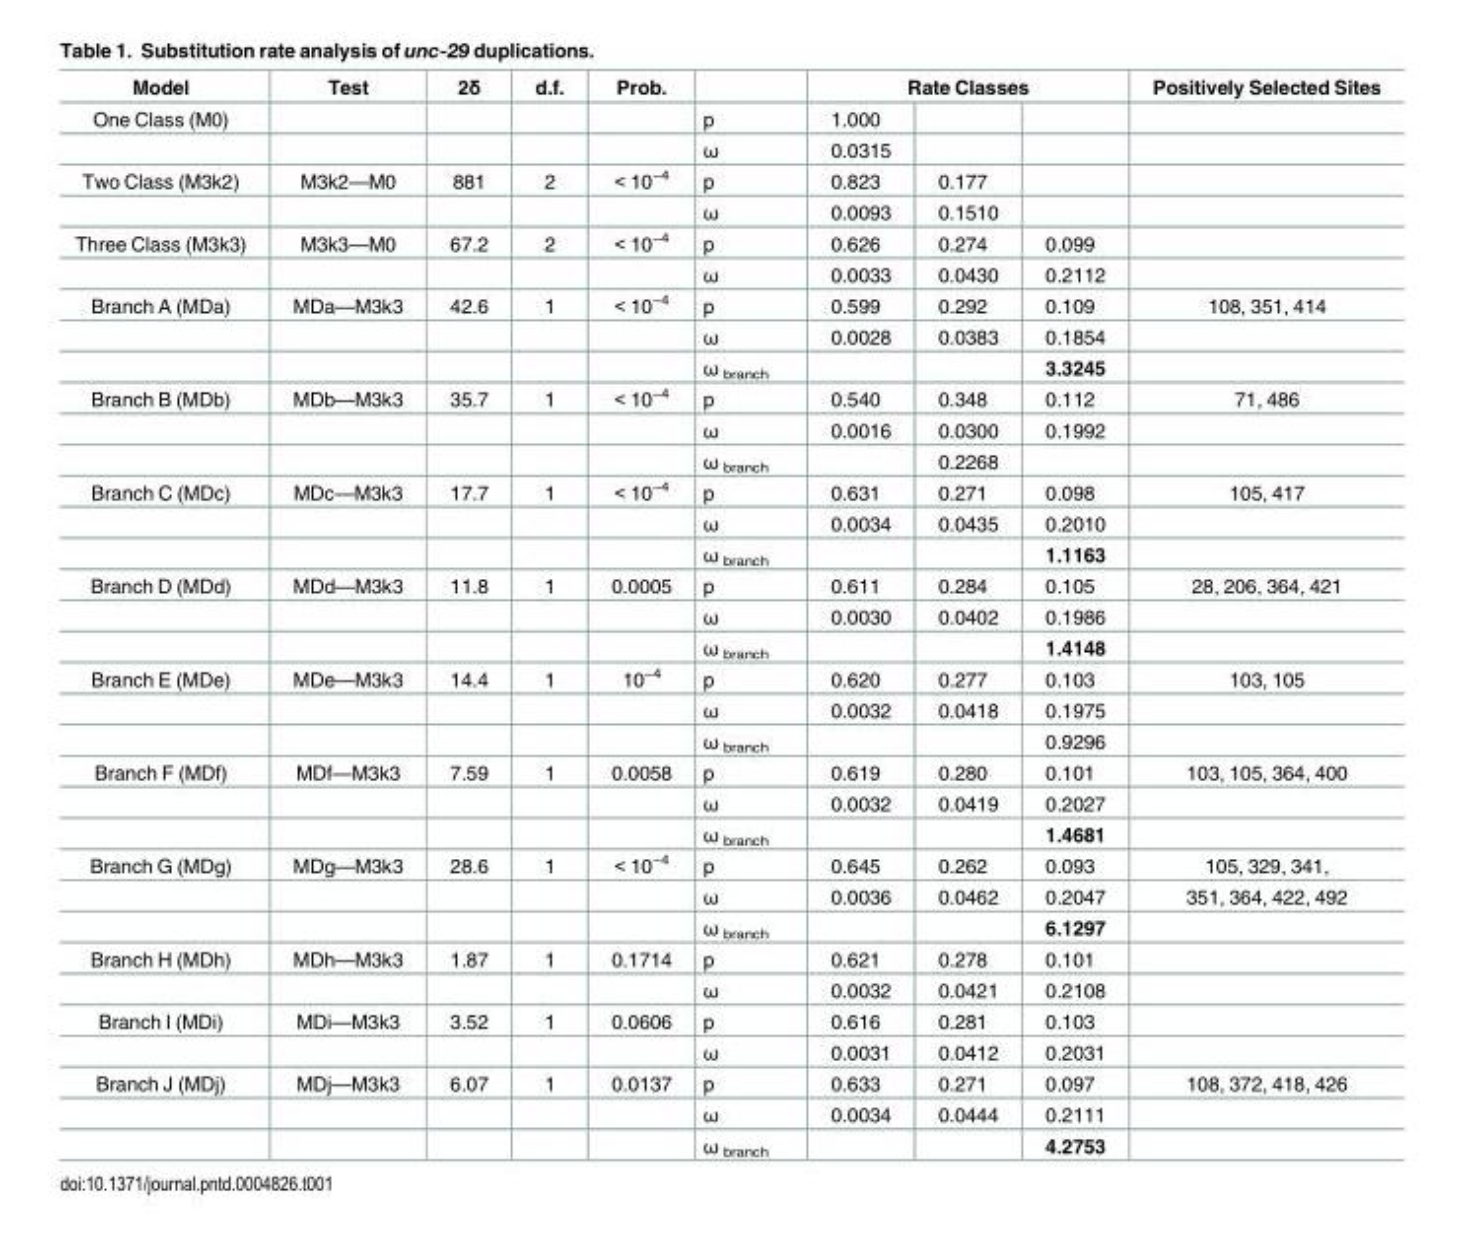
<table><thead><tr><td rowspan="2">Model One Class (M0)</td><td rowspan="2">Test</td><td rowspan="2">2δ</td><td rowspan="2">d.f.</td><td rowspan="2">Prob.</td><td rowspan="2">p</td><td colspan="3">Rate Classes</td><td rowspan="2">Positively Selected Sites</td></tr><tr><td>1.000</td><td></td><td></td></tr></thead><tbody><tr><td></td><td></td><td></td><td></td><td></td><td>ω</td><td>0.0315</td><td></td><td></td><td></td></tr><tr><td rowspan="2">Two Class (M3k2)</td><td>M3k2—M0</td><td>881</td><td>2</td><td>&lt; 10<sup>−4</sup></td><td>p</td><td>0.823</td><td>0.177</td><td></td><td></td></tr><tr><td></td><td></td><td></td><td></td><td>ω</td><td>0.0093</td><td>0.1510</td><td></td><td></td></tr><tr><td rowspan="2">Three Class (M3k3)</td><td>M3k3—M0</td><td>67.2</td><td>2</td><td>&lt; 10<sup>−4</sup></td><td>p</td><td>0.626</td><td>0.274</td><td>0.099</td><td></td></tr><tr><td></td><td></td><td></td><td></td><td>ω</td><td>0.0033</td><td>0.0430</td><td>0.2112</td><td></td></tr><tr><td rowspan="3">Branch A (MDa)</td><td>MDa—M3k3</td><td>42.6</td><td>1</td><td>&lt; 10<sup>−4</sup></td><td>p</td><td>0.599</td><td>0.292</td><td>0.109</td><td>108, 351, 414</td></tr><tr><td></td><td></td><td></td><td></td><td>ω</td><td>0.0028</td><td>0.0383</td><td>0.1854</td><td></td></tr><tr><td></td><td></td><td></td><td></td><td>ω <sub>branch</sub></td><td></td><td></td><td>3.3245</td><td></td></tr><tr><td rowspan="3">Branch B (MDb)</td><td>MDb—M3k3</td><td>35.7</td><td>1</td><td>&lt; 10<sup>−4</sup></td><td>p</td><td>0.540</td><td>0.348</td><td>0.112</td><td>71, 486</td></tr><tr><td></td><td></td><td></td><td></td><td>ω</td><td>0.0016</td><td>0.0300</td><td>0.1992</td><td></td></tr><tr><td></td><td></td><td></td><td></td><td>ω <sub>branch</sub></td><td></td><td>0.2268</td><td></td><td></td></tr><tr><td rowspan="3">Branch C (MDc)</td><td>MDc—M3k3</td><td>17.7</td><td>1</td><td>&lt; 10<sup>−4</sup></td><td>p</td><td>0.631</td><td>0.271</td><td>0.098</td><td>105, 417</td></tr><tr><td></td><td></td><td></td><td></td><td>ω</td><td>0.0034</td><td>0.0435</td><td>0.2010</td><td></td></tr><tr><td></td><td></td><td></td><td></td><td>ω <sub>branch</sub></td><td></td><td></td><td>1.1163</td><td></td></tr><tr><td rowspan="3">Branch D (MDd)</td><td>MDd—M3k3</td><td>11.8</td><td>1</td><td>0.0005</td><td>p</td><td>0.611</td><td>0.284</td><td>0.105</td><td>28, 206, 364, 421</td></tr><tr><td></td><td></td><td></td><td></td><td>ω</td><td>0.0030</td><td>0.0402</td><td>0.1986</td><td></td></tr><tr><td></td><td></td><td></td><td></td><td>ω <sub>branch</sub></td><td></td><td></td><td>1.4148</td><td></td></tr><tr><td rowspan="3">Branch E (MDe)</td><td>MDe—M3k3</td><td>14.4</td><td>1</td><td>10<sup>−4</sup></td><td>p</td><td>0.620</td><td>0.277</td><td>0.103</td><td>103, 105</td></tr><tr><td></td><td></td><td></td><td></td><td>ω</td><td>0.0032</td><td>0.0418</td><td>0.1975</td><td></td></tr><tr><td></td><td></td><td></td><td></td><td>ω <sub>branch</sub></td><td></td><td></td><td>0.9296</td><td></td></tr><tr><td rowspan="3">Branch F (MDf)</td><td>MDf—M3k3</td><td>7.59</td><td>1</td><td>0.0058</td><td>p</td><td>0.619</td><td>0.280</td><td>0.101</td><td>103, 105, 364, 400</td></tr><tr><td></td><td></td><td></td><td></td><td>ω</td><td>0.0032</td><td>0.0419</td><td>0.2027</td><td></td></tr><tr><td></td><td></td><td></td><td></td><td>ω <sub>branch</sub></td><td></td><td></td><td>1.4681</td><td></td></tr><tr><td rowspan="3">Branch G (MDg)</td><td>MDg—M3k3</td><td>28.6</td><td>1</td><td>&lt; 10<sup>−4</sup></td><td>p</td><td>0.645</td><td>0.262</td><td>0.093</td><td>105, 329, 341,</td></tr><tr><td></td><td></td><td></td><td></td><td>ω</td><td>0.0036</td><td>0.0462</td><td>0.2047</td><td>351, 364, 422, 492</td></tr><tr><td></td><td></td><td></td><td></td><td>ω <sub>branch</sub></td><td></td><td></td><td>6.1297</td><td></td></tr><tr><td rowspan="2">Branch H (MDh)</td><td>MDh—M3k3</td><td>1.87</td><td>1</td><td>0.1714</td><td>p</td><td>0.621</td><td>0.278</td><td>0.101</td><td></td></tr><tr><td></td><td></td><td></td><td></td><td>ω</td><td>0.0032</td><td>0.0421</td><td>0.2108</td><td></td></tr><tr><td rowspan="2">Branch I (MDi)</td><td>MDi—M3k3</td><td>3.52</td><td>1</td><td>0.0606</td><td>p</td><td>0.616</td><td>0.281</td><td>0.103</td><td></td></tr><tr><td></td><td></td><td></td><td></td><td>ω</td><td>0.0031</td><td>0.0412</td><td>0.2031</td><td></td></tr><tr><td rowspan="3">Branch J (MDj)</td><td>MDj—M3k3</td><td>6.07</td><td>1</td><td>0.0137</td><td>p</td><td>0.633</td><td>0.271</td><td>0.097</td><td>108, 372, 418, 426</td></tr><tr><td></td><td></td><td></td><td></td><td>ω</td><td>0.0034</td><td>0.0444</td><td>0.2111</td><td></td></tr><tr><td></td><td></td><td></td><td></td><td>ω <sub>branch</sub></td><td></td><td></td><td>4.2753</td><td></td></tr></tbody></table>